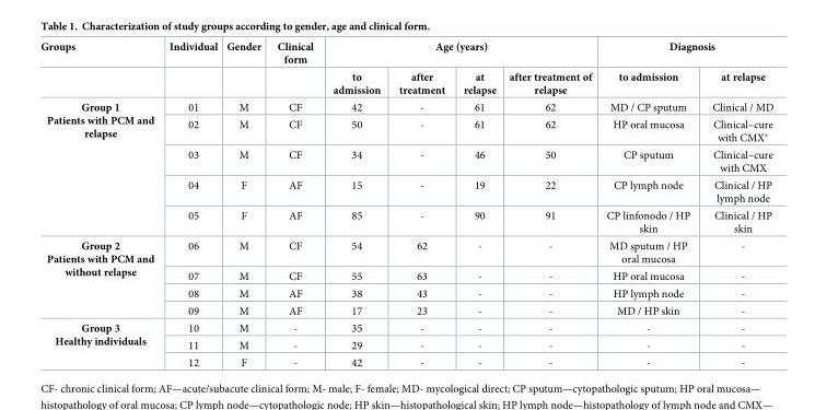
<table><thead><tr><td rowspan="2">Groups</td><td rowspan="2">Individual</td><td rowspan="2">Gender</td><td rowspan="2">Clinical form</td><td colspan="4">Age (years)</td><td colspan="2">Diagnosis</td></tr><tr><td>to admission</td><td>after treatment</td><td>at relapse</td><td>after treatment of relapse</td><td>to admission</td><td>at relapse</td></tr></thead><tbody><tr><td rowspan="5">Group 1 Patients with PCM and relapse</td><td>01</td><td>M</td><td>CF</td><td>42</td><td>-</td><td>61</td><td>62</td><td>MD / CP sputum</td><td>Clinical / MD</td></tr><tr><td>02</td><td>M</td><td>CF</td><td>50</td><td>-</td><td>61</td><td>62</td><td>HP oral mucosa</td><td>Clinical–cure with CMX*</td></tr><tr><td>03</td><td>M</td><td>CF</td><td>34</td><td>-</td><td>46</td><td>50</td><td>CP sputum</td><td>Clinical–cure with CMX</td></tr><tr><td>04</td><td>F</td><td>AF</td><td>15</td><td>-</td><td>19</td><td>22</td><td>CP lymph node</td><td>Clinical / HP lymph node</td></tr><tr><td>05</td><td>F</td><td>AF</td><td>85</td><td>-</td><td>90</td><td>91</td><td>CP linfonodo / HP skin</td><td>Clinical / HP skin</td></tr><tr><td rowspan="4">Group 2 Patients with PCM and without relapse</td><td>06</td><td>M</td><td>CF</td><td>54</td><td>62</td><td>-</td><td>-</td><td>MD sputum / HP oral mucosa</td><td>-</td></tr><tr><td>07</td><td>M</td><td>CF</td><td>55</td><td>63</td><td>-</td><td>-</td><td>HP oral mucosa</td><td>-</td></tr><tr><td>08</td><td>M</td><td>AF</td><td>38</td><td>43</td><td>-</td><td>-</td><td>HP lymph node</td><td>-</td></tr><tr><td>09</td><td>M</td><td>AF</td><td>17</td><td>23</td><td>-</td><td>-</td><td>MD / HP skin</td><td>-</td></tr><tr><td rowspan="3">Group 3 Healthy individuals</td><td>10</td><td>M</td><td>-</td><td>35</td><td>-</td><td>-</td><td>-</td><td>-</td><td>-</td></tr><tr><td>11</td><td>M</td><td>-</td><td>29</td><td>-</td><td>-</td><td>-</td><td>-</td><td>-</td></tr><tr><td>12</td><td>F</td><td>-</td><td>42</td><td>-</td><td>-</td><td>-</td><td>-</td><td>-</td></tr></tbody></table>